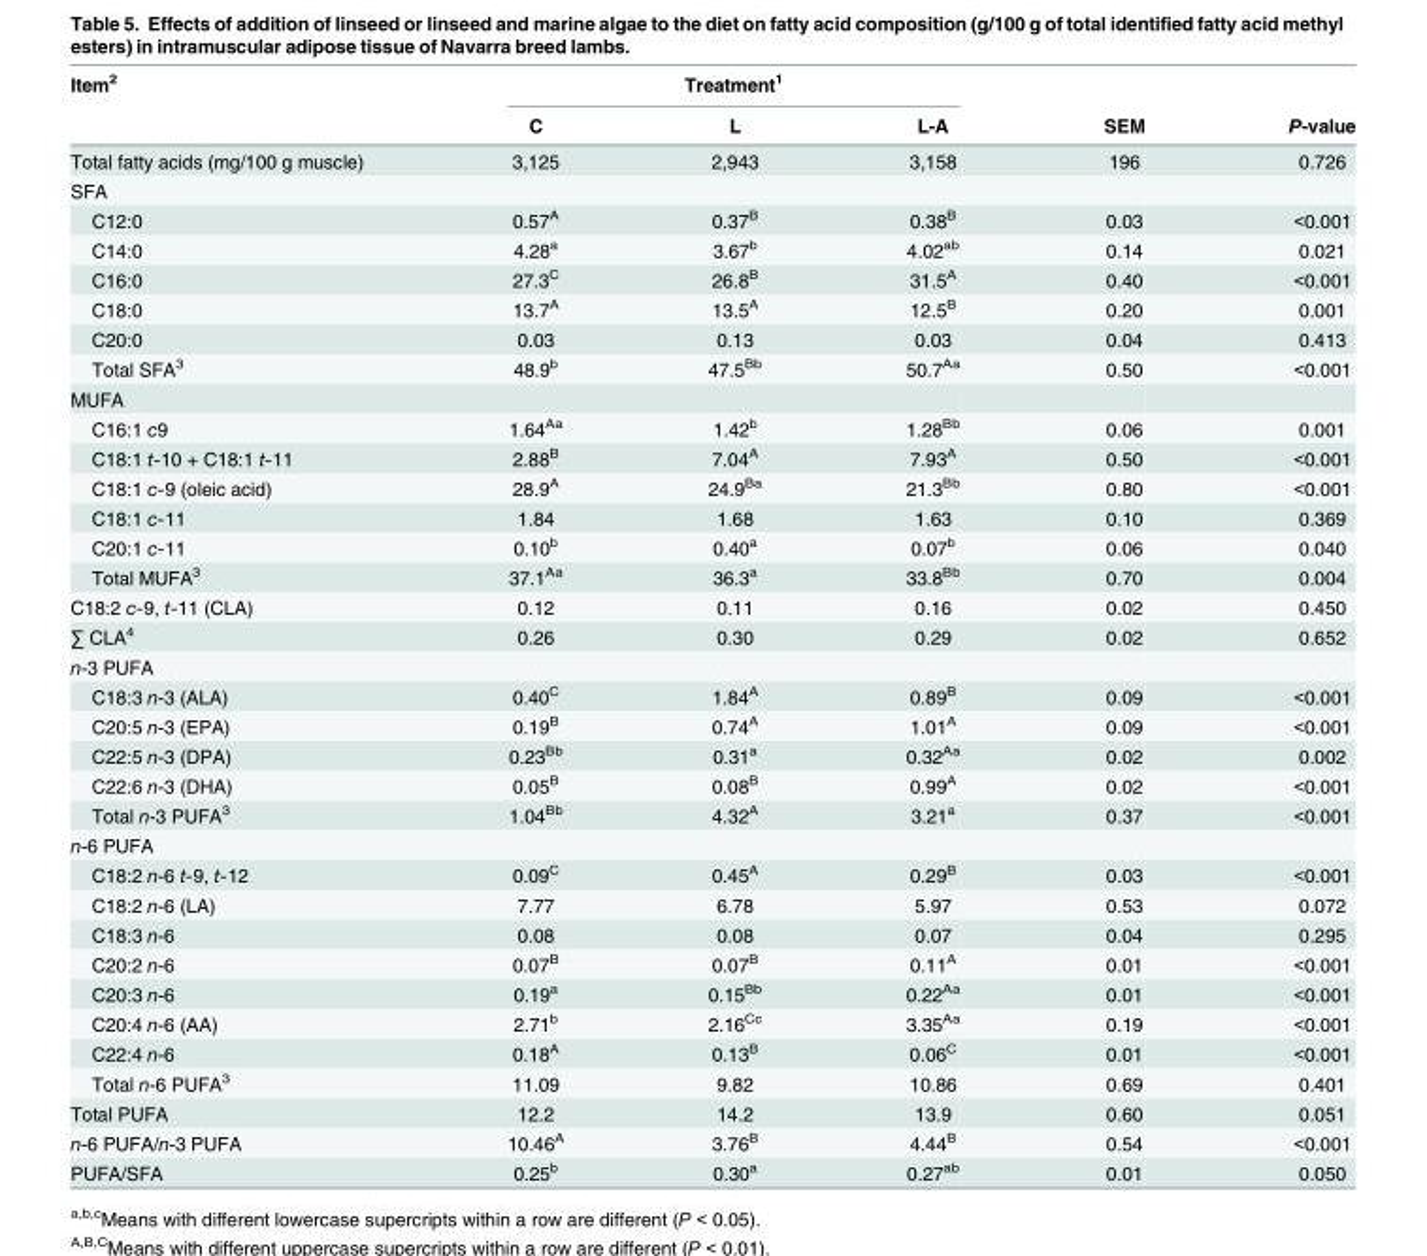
<table><thead><tr><td rowspan="2">Item<sup>2</sup></td><td colspan="3">Treatment<sup>1</sup></td><td rowspan="2">SEM</td><td rowspan="2">P-value</td></tr><tr><td>C</td><td>L</td><td>L-A</td></tr></thead><tbody><tr><td>Total fatty acids (mg/100 g muscle)</td><td>3,125</td><td>2,943</td><td>3,158</td><td>196</td><td>0.726</td></tr><tr><td colspan="6">SFA</td></tr><tr><td>C12:0</td><td>0.57<sup>A</sup></td><td>0.37<sup>B</sup></td><td>0.38<sup>B</sup></td><td>0.03</td><td>&lt;0.001</td></tr><tr><td>C14:0</td><td>4.28<sup>a</sup></td><td>3.67<sup>b</sup></td><td>4.02<sup>ab</sup></td><td>0.14</td><td>0.021</td></tr><tr><td>C16:0</td><td>27.3<sup>C</sup></td><td>26.8<sup>B</sup></td><td>31.5<sup>A</sup></td><td>0.40</td><td>&lt;0.001</td></tr><tr><td>C18:0</td><td>13.7<sup>A</sup></td><td>13.5<sup>A</sup></td><td>12.5<sup>B</sup></td><td>0.20</td><td>0.001</td></tr><tr><td>C20:0</td><td>0.03</td><td>0.13</td><td>0.03</td><td>0.04</td><td>0.413</td></tr><tr><td>Total SFA<sup>3</sup></td><td>48.9<sup>b</sup></td><td>47.5<sup>Bb</sup></td><td>50.7<sup>Aa</sup></td><td>0.50</td><td>&lt;0.001</td></tr><tr><td colspan="6">MUFA</td></tr><tr><td>C16:1 c9</td><td>1.64<sup>Aa</sup></td><td>1.42<sup>b</sup></td><td>1.28<sup>Bb</sup></td><td>0.06</td><td>0.001</td></tr><tr><td>C18:1 t-10 + C18:1 t-11</td><td>2.88<sup>B</sup></td><td>7.04<sup>A</sup></td><td>7.93<sup>A</sup></td><td>0.50</td><td>&lt;0.001</td></tr><tr><td>C18:1 c-9 (oleic acid)</td><td>28.9<sup>A</sup></td><td>24.9<sup>Ba</sup></td><td>21.3<sup>Bb</sup></td><td>0.80</td><td>&lt;0.001</td></tr><tr><td>C18:1 c-11</td><td>1.84</td><td>1.68</td><td>1.63</td><td>0.10</td><td>0.369</td></tr><tr><td>C20:1 c-11</td><td>0.10<sup>b</sup></td><td>0.40<sup>a</sup></td><td>0.07<sup>b</sup></td><td>0.06</td><td>0.040</td></tr><tr><td>Total MUFA<sup>3</sup></td><td>37.1<sup>Aa</sup></td><td>36.3<sup>a</sup></td><td>33.8<sup>Bb</sup></td><td>0.70</td><td>0.004</td></tr><tr><td>C18:2 c-9, t-11 (CLA)</td><td>0.12</td><td>0.11</td><td>0.16</td><td>0.02</td><td>0.450</td></tr><tr><td>∑ CLA<sup>4</sup></td><td>0.26</td><td>0.30</td><td>0.29</td><td>0.02</td><td>0.652</td></tr><tr><td colspan="6">n-3 PUFA</td></tr><tr><td>C18:3 n-3 (ALA)</td><td>0.40<sup>C</sup></td><td>1.84<sup>A</sup></td><td>0.89<sup>B</sup></td><td>0.09</td><td>&lt;0.001</td></tr><tr><td>C20:5 n-3 (EPA)</td><td>0.19<sup>B</sup></td><td>0.74<sup>A</sup></td><td>1.01<sup>A</sup></td><td>0.09</td><td>&lt;0.001</td></tr><tr><td>C22:5 n-3 (DPA)</td><td>0.23<sup>Bb</sup></td><td>0.31<sup>a</sup></td><td>0.32<sup>Aa</sup></td><td>0.02</td><td>0.002</td></tr><tr><td>C22:6 n-3 (DHA)</td><td>0.05<sup>B</sup></td><td>0.08<sup>B</sup></td><td>0.99<sup>A</sup></td><td>0.02</td><td>&lt;0.001</td></tr><tr><td>Total n-3 PUFA<sup>3</sup></td><td>1.04<sup>Bb</sup></td><td>4.32<sup>A</sup></td><td>3.21<sup>a</sup></td><td>0.37</td><td>&lt;0.001</td></tr><tr><td colspan="6">n-6 PUFA</td></tr><tr><td>C18:2 n-6 t-9, t-12</td><td>0.09<sup>C</sup></td><td>0.45<sup>A</sup></td><td>0.29<sup>B</sup></td><td>0.03</td><td>&lt;0.001</td></tr><tr><td>C18:2 n-6 (LA)</td><td>7.77</td><td>6.78</td><td>5.97</td><td>0.53</td><td>0.072</td></tr><tr><td>C18:3 n-6</td><td>0.08</td><td>0.08</td><td>0.07</td><td>0.04</td><td>0.295</td></tr><tr><td>C20:2 n-6</td><td>0.07<sup>B</sup></td><td>0.07<sup>B</sup></td><td>0.11<sup>A</sup></td><td>0.01</td><td>&lt;0.001</td></tr><tr><td>C20:3 n-6</td><td>0.19<sup>a</sup></td><td>0.15<sup>Bb</sup></td><td>0.22<sup>Aa</sup></td><td>0.01</td><td>&lt;0.001</td></tr><tr><td>C20:4 n-6 (AA)</td><td>2.71<sup>b</sup></td><td>2.16<sup>Cc</sup></td><td>3.35<sup>Aa</sup></td><td>0.19</td><td>&lt;0.001</td></tr><tr><td>C22:4 n-6</td><td>0.18<sup>A</sup></td><td>0.13<sup>B</sup></td><td>0.06<sup>C</sup></td><td>0.01</td><td>&lt;0.001</td></tr><tr><td>Total n-6 PUFA<sup>3</sup></td><td>11.09</td><td>9.82</td><td>10.86</td><td>0.69</td><td>0.401</td></tr><tr><td>Total PUFA</td><td>12.2</td><td>14.2</td><td>13.9</td><td>0.60</td><td>0.051</td></tr><tr><td>n-6 PUFA/n-3 PUFA</td><td>10.46<sup>A</sup></td><td>3.76<sup>B</sup></td><td>4.44<sup>B</sup></td><td>0.54</td><td>&lt;0.001</td></tr><tr><td>PUFA/SFA</td><td>0.25<sup>b</sup></td><td>0.30<sup>a</sup></td><td>0.27<sup>ab</sup></td><td>0.01</td><td>0.050</td></tr></tbody></table>